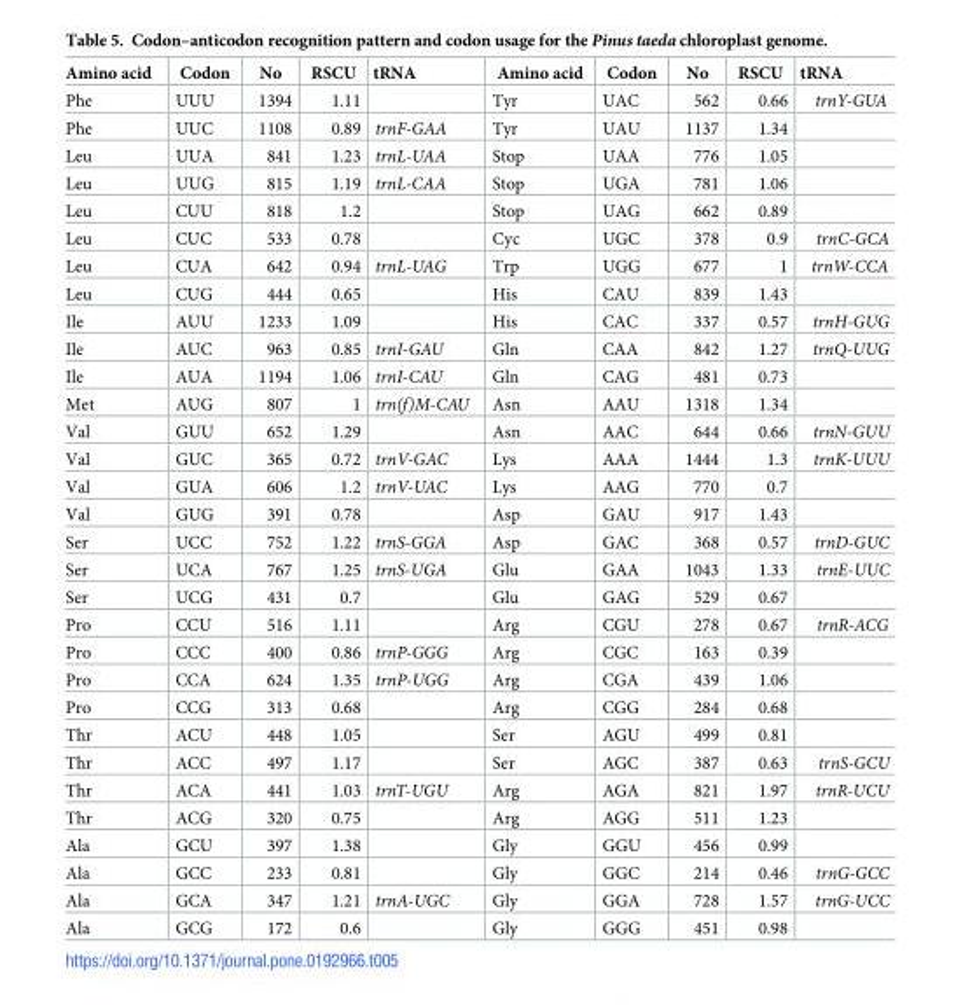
<table><thead><tr><td>Amino acid</td><td>Codon</td><td>No</td><td>RSCU</td><td>tRNA</td><td>Amino acid</td><td>Codon</td><td>No</td><td>RSCU</td><td>tRNA</td></tr></thead><tbody><tr><td>Phe</td><td>UUU</td><td>1394</td><td>1.11</td><td></td><td>Tyr</td><td>UAC</td><td>562</td><td>0.66</td><td>trnY-GUA</td></tr><tr><td>Phe</td><td>UUC</td><td>1108</td><td>0.89</td><td>trnF-GAA</td><td>Tyr</td><td>UAU</td><td>1137</td><td>1.34</td><td></td></tr><tr><td>Leu</td><td>UUA</td><td>841</td><td>1.23</td><td>trnL-UAA</td><td>Stop</td><td>UAA</td><td>776</td><td>1.05</td><td></td></tr><tr><td>Leu</td><td>UUG</td><td>815</td><td>1.19</td><td>trnL-CAA</td><td>Stop</td><td>UGA</td><td>781</td><td>1.06</td><td></td></tr><tr><td>Leu</td><td>CUU</td><td>818</td><td>1.2</td><td></td><td>Stop</td><td>UAG</td><td>662</td><td>0.89</td><td></td></tr><tr><td>Leu</td><td>CUC</td><td>533</td><td>0.78</td><td></td><td>Cyc</td><td>UGC</td><td>378</td><td>0.9</td><td>trnC-GCA</td></tr><tr><td>Leu</td><td>CUA</td><td>642</td><td>0.94</td><td>trnL-UAG</td><td>Trp</td><td>UGG</td><td>677</td><td>1</td><td>trnW-CCA</td></tr><tr><td>Leu</td><td>CUG</td><td>444</td><td>0.65</td><td></td><td>His</td><td>CAU</td><td>839</td><td>1.43</td><td></td></tr><tr><td>Ile</td><td>AUU</td><td>1233</td><td>1.09</td><td></td><td>His</td><td>CAC</td><td>337</td><td>0.57</td><td>trnH-GUG</td></tr><tr><td>Ile</td><td>AUC</td><td>963</td><td>0.85</td><td>trnI-GAU</td><td>Gln</td><td>CAA</td><td>842</td><td>1.27</td><td>trnQ-UUG</td></tr><tr><td>Ile</td><td>AUA</td><td>1194</td><td>1.06</td><td>trnI-CAU</td><td>Gln</td><td>CAG</td><td>481</td><td>0.73</td><td></td></tr><tr><td>Met</td><td>AUG</td><td>807</td><td>1</td><td>trn(f)M-CAU</td><td>Asn</td><td>AAU</td><td>1318</td><td>1.34</td><td></td></tr><tr><td>Val</td><td>GUU</td><td>652</td><td>1.29</td><td></td><td>Asn</td><td>AAC</td><td>644</td><td>0.66</td><td>trnN-GUU</td></tr><tr><td>Val</td><td>GUC</td><td>365</td><td>0.72</td><td>trnV-GAC</td><td>Lys</td><td>AAA</td><td>1444</td><td>1.3</td><td>trnK-UUU</td></tr><tr><td>Val</td><td>GUA</td><td>606</td><td>1.2</td><td>trnV-UAC</td><td>Lys</td><td>AAG</td><td>770</td><td>0.7</td><td></td></tr><tr><td>Val</td><td>GUG</td><td>391</td><td>0.78</td><td></td><td>Asp</td><td>GAU</td><td>917</td><td>1.43</td><td></td></tr><tr><td>Ser</td><td>UCC</td><td>752</td><td>1.22</td><td>trnS-GGA</td><td>Asp</td><td>GAC</td><td>368</td><td>0.57</td><td>trnD-GUC</td></tr><tr><td>Ser</td><td>UCA</td><td>767</td><td>1.25</td><td>trnS-UGA</td><td>Glu</td><td>GAA</td><td>1043</td><td>1.33</td><td>trnE-UUC</td></tr><tr><td>Ser</td><td>UCG</td><td>431</td><td>0.7</td><td></td><td>Glu</td><td>GAG</td><td>529</td><td>0.67</td><td></td></tr><tr><td>Pro</td><td>CCU</td><td>516</td><td>1.11</td><td></td><td>Arg</td><td>CGU</td><td>278</td><td>0.67</td><td>trnR-ACG</td></tr><tr><td>Pro</td><td>CCC</td><td>400</td><td>0.86</td><td>trnP-GGG</td><td>Arg</td><td>CGC</td><td>163</td><td>0.39</td><td></td></tr><tr><td>Pro</td><td>CCA</td><td>624</td><td>1.35</td><td>trnP-UGG</td><td>Arg</td><td>CGA</td><td>439</td><td>1.06</td><td></td></tr><tr><td>Pro</td><td>CCG</td><td>313</td><td>0.68</td><td></td><td>Arg</td><td>CGG</td><td>284</td><td>0.68</td><td></td></tr><tr><td>Thr</td><td>ACU</td><td>448</td><td>1.05</td><td></td><td>Ser</td><td>AGU</td><td>499</td><td>0.81</td><td></td></tr><tr><td>Thr</td><td>ACC</td><td>497</td><td>1.17</td><td></td><td>Ser</td><td>AGC</td><td>387</td><td>0.63</td><td>trnS-GCU</td></tr><tr><td>Thr</td><td>ACA</td><td>441</td><td>1.03</td><td>trnT-UGU</td><td>Arg</td><td>AGA</td><td>821</td><td>1.97</td><td>trnR-UCU</td></tr><tr><td>Thr</td><td>ACG</td><td>320</td><td>0.75</td><td></td><td>Arg</td><td>AGG</td><td>511</td><td>1.23</td><td></td></tr><tr><td>Ala</td><td>GCU</td><td>397</td><td>1.38</td><td></td><td>Gly</td><td>GGU</td><td>456</td><td>0.99</td><td></td></tr><tr><td>Ala</td><td>GCC</td><td>233</td><td>0.81</td><td></td><td>Gly</td><td>GGC</td><td>214</td><td>0.46</td><td>trnG-GCC</td></tr><tr><td>Ala</td><td>GCA</td><td>347</td><td>1.21</td><td>trnA-UGC</td><td>Gly</td><td>GGA</td><td>728</td><td>1.57</td><td>trnG-UCC</td></tr><tr><td>Ala</td><td>GCG</td><td>172</td><td>0.6</td><td></td><td>Gly</td><td>GGG</td><td>451</td><td>0.98</td><td></td></tr></tbody></table>